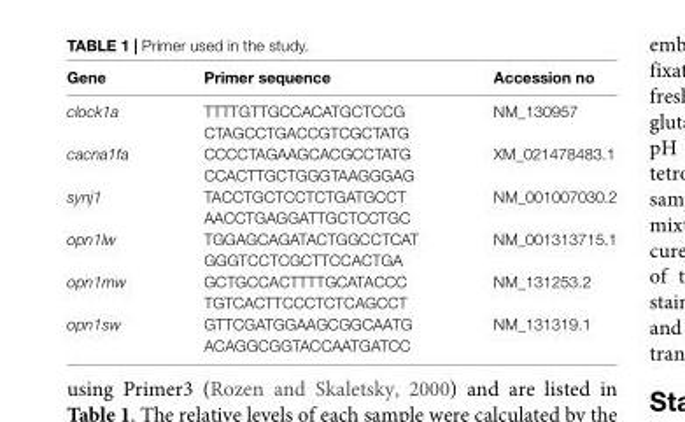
<table><thead><tr><td>Gene</td><td>Primer sequence</td><td>Accession no</td></tr></thead><tbody><tr><td rowspan="2">clock1a</td><td>TTTTGTTGCCACATGCTCCG</td><td>NM_130957</td></tr><tr><td>CTAGCCTGACCGTCGCTATG</td><td></td></tr><tr><td rowspan="2">cacna1fa</td><td>CCCCTAGAAGCACGCCTATG</td><td>XM_021478483.1</td></tr><tr><td>CCACTTGCTGGGTAAGGGAG</td><td></td></tr><tr><td rowspan="2">synj1</td><td>TACCTGCTCCTCTGATGCCT</td><td>NM_001007030.2</td></tr><tr><td>AACCTGAGGATTGCTCCTGC</td><td></td></tr><tr><td rowspan="2">opn1lw</td><td>TGGAGCAGATACTGGCCTCAT</td><td>NM_001313715.1</td></tr><tr><td>GGGTCCTCGCTTCCACTGA</td><td></td></tr><tr><td rowspan="2">opn1mw</td><td>GCTGCCACTTTTGCATACCC</td><td>NM_131253.2</td></tr><tr><td>TGTCACTTCCCTCTCAGCCT</td><td></td></tr><tr><td rowspan="2">opn1sw</td><td>GTTCGATGGAAGCGGCAATG</td><td>NM_131319.1</td></tr><tr><td>ACAGGCGGTACCAATGATCC</td><td></td></tr></tbody></table>